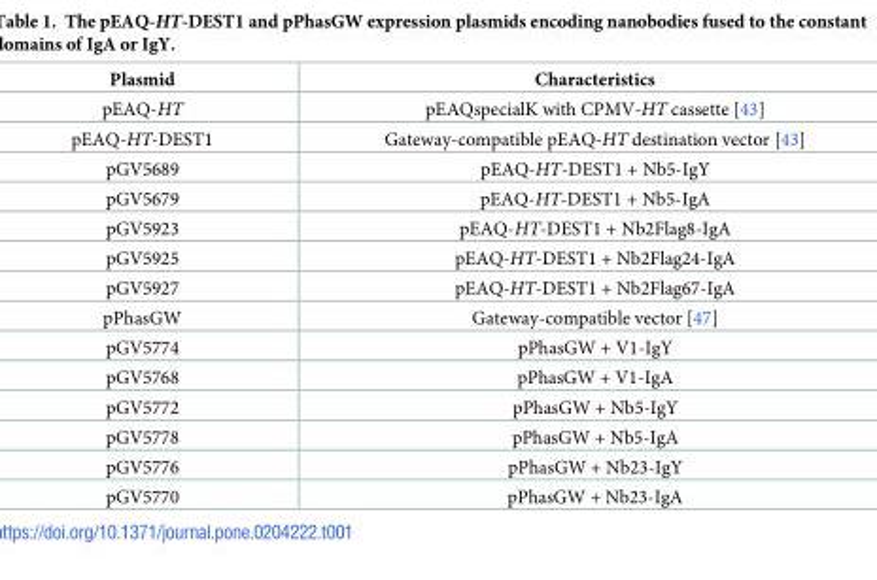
<table><thead><tr><td>Plasmid</td><td>Characteristics</td></tr></thead><tbody><tr><td>pEAQ-HT</td><td>pEAQspecialK with CPMV-HT cassette [43]</td></tr><tr><td>pEAQ-HT-DEST1</td><td>Gateway-compatible pEAQ-HT destination vector [43]</td></tr><tr><td>pGV5689</td><td>pEAQ-HT-DEST1 + Nb5-IgY</td></tr><tr><td>pGV5679</td><td>pEAQ-HT-DEST1 + Nb5-IgA</td></tr><tr><td>pGV5923</td><td>pEAQ-HT-DEST1 + Nb2Flag8-IgA</td></tr><tr><td>pGV5925</td><td>pEAQ-HT-DEST1 + Nb2Flag24-IgA</td></tr><tr><td>pGV5927</td><td>pEAQ-HT-DEST1 + Nb2Flag67-IgA</td></tr><tr><td>pPhasGW</td><td>Gateway-compatible vector [47]</td></tr><tr><td>pGV5774</td><td>pPhasGW + V1-IgY</td></tr><tr><td>pGV5768</td><td>pPhasGW + V1-IgA</td></tr><tr><td>pGV5772</td><td>pPhasGW + Nb5-IgY</td></tr><tr><td>pGV5778</td><td>pPhasGW + Nb5-IgA</td></tr><tr><td>pGV5776</td><td>pPhasGW + Nb23-IgY</td></tr><tr><td>pGV5770</td><td>pPhasGW + Nb23-IgA</td></tr></tbody></table>